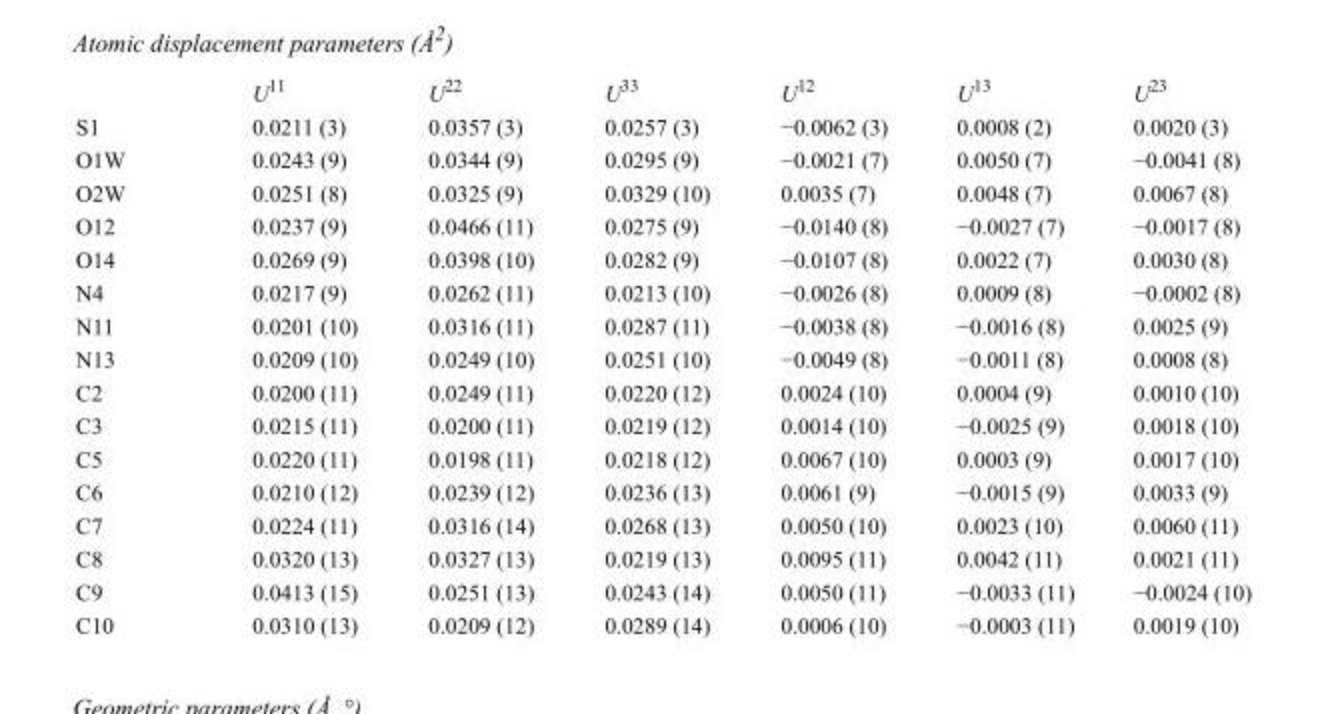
<table><thead><tr><td></td><td>U<sup>11</sup></td><td>U<sup>22</sup></td><td>U<sup>33</sup></td><td>U<sup>12</sup></td><td>U<sup>13</sup></td><td>U<sup>23</sup></td></tr></thead><tbody><tr><td>S1</td><td>0.0211 (3)</td><td>0.0357 (3)</td><td>0.0257 (3)</td><td>−0.0062 (3)</td><td>0.0008 (2)</td><td>0.0020 (3)</td></tr><tr><td>O1W</td><td>0.0243 (9)</td><td>0.0344 (9)</td><td>0.0295 (9)</td><td>−0.0021 (7)</td><td>0.0050 (7)</td><td>−0.0041 (8)</td></tr><tr><td>O2W</td><td>0.0251 (8)</td><td>0.0325 (9)</td><td>0.0329 (10)</td><td>0.0035 (7)</td><td>0.0048 (7)</td><td>0.0067 (8)</td></tr><tr><td>O12</td><td>0.0237 (9)</td><td>0.0466 (11)</td><td>0.0275 (9)</td><td>−0.0140 (8)</td><td>−0.0027 (7)</td><td>−0.0017 (8)</td></tr><tr><td>O14</td><td>0.0269 (9)</td><td>0.0398 (10)</td><td>0.0282 (9)</td><td>−0.0107 (8)</td><td>0.0022 (7)</td><td>0.0030 (8)</td></tr><tr><td>N4</td><td>0.0217 (9)</td><td>0.0262 (11)</td><td>0.0213 (10)</td><td>−0.0026 (8)</td><td>0.0009 (8)</td><td>−0.0002 (8)</td></tr><tr><td>N11</td><td>0.0201 (10)</td><td>0.0316 (11)</td><td>0.0287 (11)</td><td>−0.0038 (8)</td><td>−0.0016 (8)</td><td>0.0025 (9)</td></tr><tr><td>N13</td><td>0.0209 (10)</td><td>0.0249 (10)</td><td>0.0251 (10)</td><td>−0.0049 (8)</td><td>−0.0011 (8)</td><td>0.0008 (8)</td></tr><tr><td>C2</td><td>0.0200 (11)</td><td>0.0249 (11)</td><td>0.0220 (12)</td><td>0.0024 (10)</td><td>0.0004 (9)</td><td>0.0010 (10)</td></tr><tr><td>C3</td><td>0.0215 (11)</td><td>0.0200 (11)</td><td>0.0219 (12)</td><td>0.0014 (10)</td><td>−0.0025 (9)</td><td>0.0018 (10)</td></tr><tr><td>C5</td><td>0.0220 (11)</td><td>0.0198 (11)</td><td>0.0218 (12)</td><td>0.0067 (10)</td><td>0.0003 (9)</td><td>0.0017 (10)</td></tr><tr><td>C6</td><td>0.0210 (12)</td><td>0.0239 (12)</td><td>0.0236 (13)</td><td>0.0061 (9)</td><td>−0.0015 (9)</td><td>0.0033 (9)</td></tr><tr><td>C7</td><td>0.0224 (11)</td><td>0.0316 (14)</td><td>0.0268 (13)</td><td>0.0050 (10)</td><td>0.0023 (10)</td><td>0.0060 (11)</td></tr><tr><td>C8</td><td>0.0320 (13)</td><td>0.0327 (13)</td><td>0.0219 (13)</td><td>0.0095 (11)</td><td>0.0042 (11)</td><td>0.0021 (11)</td></tr><tr><td>C9</td><td>0.0413 (15)</td><td>0.0251 (13)</td><td>0.0243 (14)</td><td>0.0050 (11)</td><td>−0.0033 (11)</td><td>−0.0024 (10)</td></tr><tr><td>C10</td><td>0.0310 (13)</td><td>0.0209 (12)</td><td>0.0289 (14)</td><td>0.0006 (10)</td><td>−0.0003 (11)</td><td>0.0019 (10)</td></tr></tbody></table>